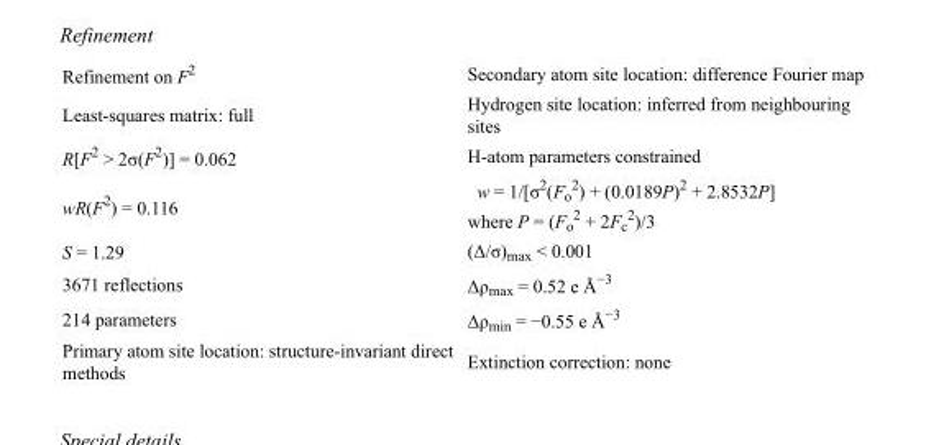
<table><tbody><tr><td>Refinement on F<sup>2</sup></td><td>Secondary atom site location: difference Fourier map</td></tr><tr><td>Least-squares matrix: full</td><td>Hydrogen site location: inferred from neighbouring sites</td></tr><tr><td>R[F<sup>2</sup> &gt; 2σ(F<sup>2</sup>)] = 0.062</td><td>H-atom parameters constrained</td></tr><tr><td>wR(F<sup>2</sup>) = 0.116</td><td>w = 1/[σ<sup>2</sup>(F<sub>o</sub> <sup>2</sup>) + (0.0189P)<sup>2</sup> + 2.8532P] where P = (F<sub>o</sub> <sup>2</sup> + 2F<sub>c</sub> <sup>2</sup>)/3</td></tr><tr><td>S = 1.29</td><td>(Δ/σ)<sub>max</sub> &lt; 0.001</td></tr><tr><td>3671 reflections</td><td>Δρ<sub>max</sub> = 0.52 e Å<sup>−3</sup></td></tr><tr><td>214 parameters</td><td>Δρ<sub>min</sub> = −0.55 e Å<sup>−3</sup></td></tr><tr><td>Primary atom site location: structure-invariant direct methods</td><td>Extinction correction: none</td></tr></tbody></table>